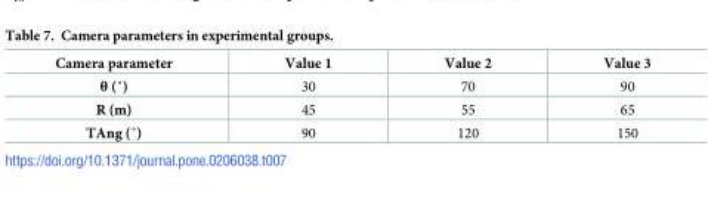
<table><thead><tr><td>Camera parameter</td><td>Value 1</td><td>Value 2</td><td>Value 3</td></tr></thead><tbody><tr><td>θ (˚)</td><td>30</td><td>70</td><td>90</td></tr><tr><td>R (m)</td><td>45</td><td>55</td><td>65</td></tr><tr><td>TAng (˚)</td><td>90</td><td>120</td><td>150</td></tr></tbody></table>